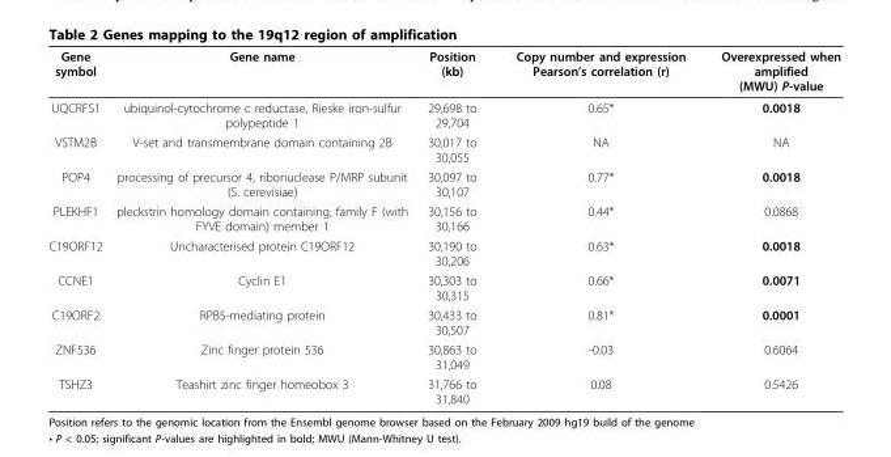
<table><thead><tr><td>Gene symbol</td><td>Gene name</td><td>Position (kb)</td><td>Copy number and expression Pearson’s correlation (r)</td><td>Overexpressed when amplified (MWU) P-value</td></tr></thead><tbody><tr><td>UQCRFS1</td><td>ubiquinol-cytochrome c reductase, Rieske iron-sulfur polypeptide 1</td><td>29,698 to 29,704</td><td>0.65*</td><td>0.0018</td></tr><tr><td>VSTM2B</td><td>V-set and transmembrane domain containing 2B</td><td>30,017 to 30,055</td><td>NA</td><td>NA</td></tr><tr><td>POP4</td><td>processing of precursor 4, ribonuclease P/MRP subunit (S. cerevisiae)</td><td>30,097 to 30,107</td><td>0.77*</td><td>0.0018</td></tr><tr><td>PLEKHF1</td><td>pleckstrin homology domain containing, family F (with FYVE domain) member 1</td><td>30,156 to 30,166</td><td>0.44*</td><td>0.0868</td></tr><tr><td>C19ORF12</td><td>Uncharacterised protein C19ORF12</td><td>30,190 to 30,206</td><td>0.63*</td><td>0.0018</td></tr><tr><td>CCNE1</td><td>Cyclin E1</td><td>30,303 to 30,315</td><td>0.66*</td><td>0.0071</td></tr><tr><td>C19ORF2</td><td>RPB5-mediating protein</td><td>30,433 to 30,507</td><td>0.81*</td><td>0.0001</td></tr><tr><td>ZNF536</td><td>Zinc finger protein 536</td><td>30,863 to 31,049</td><td>-0.03</td><td>0.6064</td></tr><tr><td>TSHZ3</td><td>Teashirt zinc finger homeobox 3</td><td>31,766 to 31,840</td><td>0.08</td><td>0.5426</td></tr></tbody></table>